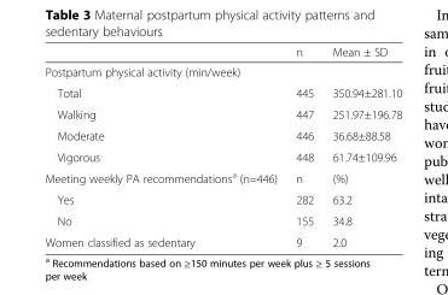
<table><thead><tr><td></td><td>n</td><td>Mean ± SD</td></tr></thead><tbody><tr><td colspan="3">Postpartum physical activity (min/week)</td></tr><tr><td>Total</td><td>445</td><td>350.94±281.10</td></tr><tr><td>Walking</td><td>447</td><td>251.97±196.78</td></tr><tr><td>Moderate</td><td>446</td><td>36.68±88.58</td></tr><tr><td>Vigorous</td><td>448</td><td>61.74±109.96</td></tr><tr><td>Meeting weekly PA recommendations<sup>a</sup> (n=446)</td><td>n</td><td>(%)</td></tr><tr><td>Yes</td><td>282</td><td>63.2</td></tr><tr><td>No</td><td>155</td><td>34.8</td></tr><tr><td>Women classified as sedentary</td><td>9</td><td>2.0</td></tr></tbody></table>